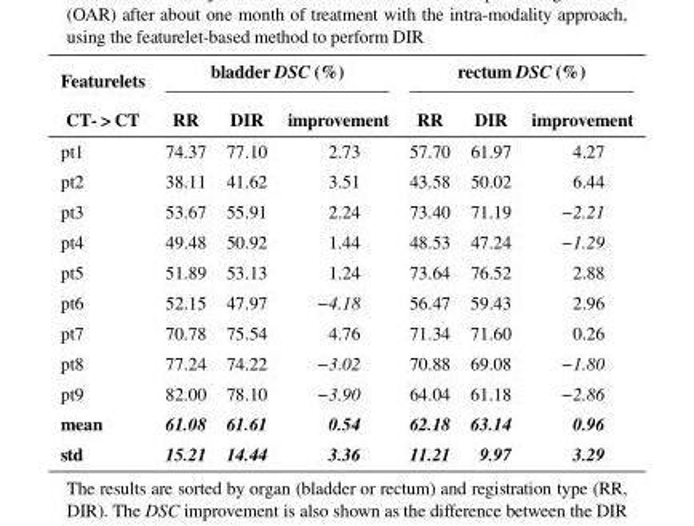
<table><thead><tr><td rowspan="2">Featurelets CT- &gt; CT</td><td colspan="3">bladder DSC (%)</td><td colspan="3">rectum DSC (%)</td></tr><tr><td>RR</td><td>DIR</td><td>improvement</td><td>RR</td><td>DIR</td><td>improvement</td></tr></thead><tbody><tr><td>pt1</td><td>74.37</td><td>77.10</td><td>2.73</td><td>57.70</td><td>61.97</td><td>4.27</td></tr><tr><td>pt2</td><td>38.11</td><td>41.62</td><td>3.51</td><td>43.58</td><td>50.02</td><td>6.44</td></tr><tr><td>pt3</td><td>53.67</td><td>55.91</td><td>2.24</td><td>73.40</td><td>71.19</td><td>−2.21</td></tr><tr><td>pt4</td><td>49.48</td><td>50.92</td><td>1.44</td><td>48.53</td><td>47.24</td><td>−1.29</td></tr><tr><td>pt5</td><td>51.89</td><td>53.13</td><td>1.24</td><td>73.64</td><td>76.52</td><td>2.88</td></tr><tr><td>pt6</td><td>52.15</td><td>47.97</td><td>−4.18</td><td>56.47</td><td>59.43</td><td>2.96</td></tr><tr><td>pt7</td><td>70.78</td><td>75.54</td><td>4.76</td><td>71.34</td><td>71.60</td><td>0.26</td></tr><tr><td>pt8</td><td>77.24</td><td>74.22</td><td>−3.02</td><td>70.88</td><td>69.08</td><td>−1.80</td></tr><tr><td>pt9</td><td>82.00</td><td>78.10</td><td>−3.90</td><td>64.04</td><td>61.18</td><td>−2.86</td></tr><tr><td>mean</td><td>61.08</td><td>61.61</td><td>0.54</td><td>62.18</td><td>63.14</td><td>0.96</td></tr><tr><td>std</td><td>15.21</td><td>14.44</td><td>3.36</td><td>11.21</td><td>9.97</td><td>3.29</td></tr></tbody></table>